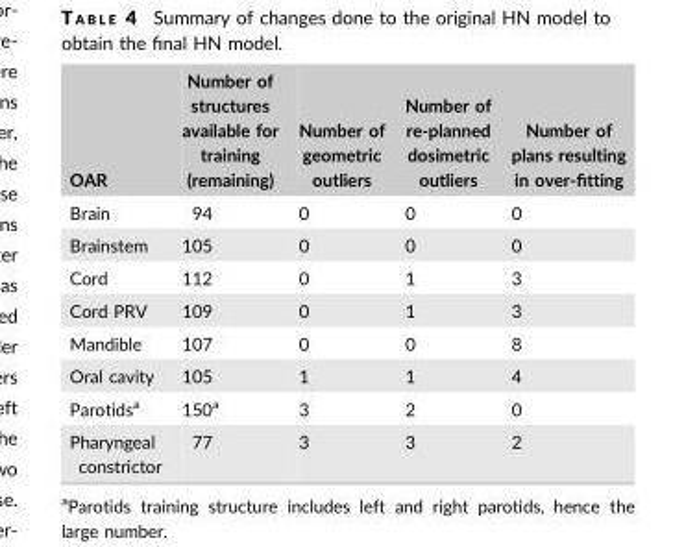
<table><thead><tr><td>OAR</td><td>Number of structures available for training (remaining)</td><td>Number of geometric outliers</td><td>Number of re-planned dosimetric outliers</td><td>Number of plans resulting in over-fitting</td></tr></thead><tbody><tr><td>Brain</td><td>94</td><td>0</td><td>0</td><td>0</td></tr><tr><td>Brainstem</td><td>105</td><td>0</td><td>0</td><td>0</td></tr><tr><td>Cord</td><td>112</td><td>0</td><td>1</td><td>3</td></tr><tr><td>Cord PRV</td><td>109</td><td>0</td><td>1</td><td>3</td></tr><tr><td>Mandible</td><td>107</td><td>0</td><td>0</td><td>8</td></tr><tr><td>Oral cavity</td><td>105</td><td>1</td><td>1</td><td>4</td></tr><tr><td>Parotids<sup>a</sup></td><td>150<sup>a</sup></td><td>3</td><td>2</td><td>0</td></tr><tr><td>Pharyngeal constrictor</td><td>77</td><td>3</td><td>3</td><td>2</td></tr></tbody></table>